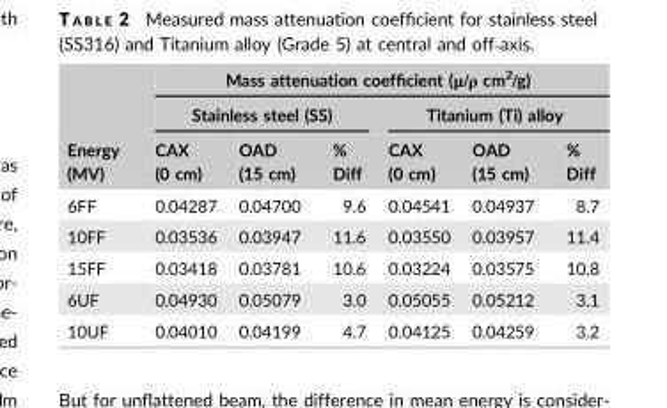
<table><thead><tr><td rowspan="3">Energy (MV)</td><td colspan="6">Mass attenuation coefficient (μ/ρ cm<sup>2</sup>/g)</td></tr><tr><td colspan="3">Stainless steel (SS)</td><td colspan="3">Titanium (Ti) alloy</td></tr><tr><td>CAX (0 cm)</td><td>OAD (15 cm)</td><td>% Diff</td><td>CAX (0 cm)</td><td>OAD (15 cm)</td><td>% Diff</td></tr></thead><tbody><tr><td>6FF</td><td>0.04287</td><td>0.04700</td><td>9.6</td><td>0.04541</td><td>0.04937</td><td>8.7</td></tr><tr><td>10FF</td><td>0.03536</td><td>0.03947</td><td>11.6</td><td>0.03550</td><td>0.03957</td><td>11.4</td></tr><tr><td>15FF</td><td>0.03418</td><td>0.03781</td><td>10.6</td><td>0.03224</td><td>0.03575</td><td>10.8</td></tr><tr><td>6UF</td><td>0.04930</td><td>0.05079</td><td>3.0</td><td>0.05055</td><td>0.05212</td><td>3.1</td></tr><tr><td>10UF</td><td>0.04010</td><td>0.04199</td><td>4.7</td><td>0.04125</td><td>0.04259</td><td>3.2</td></tr></tbody></table>